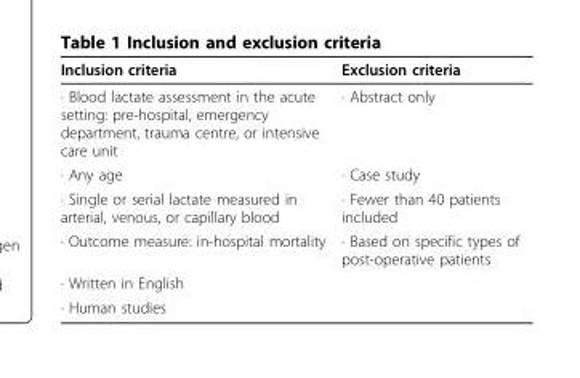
<table><thead><tr><td>Inclusion criteria</td><td>Exclusion criteria</td></tr></thead><tbody><tr><td>∙ Blood lactate assessment in the acute setting: pre-hospital, emergency department, trauma centre, or intensive care unit</td><td>∙ Abstract only</td></tr><tr><td>∙ Any age</td><td>∙ Case study</td></tr><tr><td>∙ Single or serial lactate measured in arterial, venous, or capillary blood</td><td>∙ Fewer than 40 patients included</td></tr><tr><td>∙ Outcome measure: in-hospital mortality</td><td>∙ Based on specific types of post-operative patients</td></tr><tr><td colspan="2">∙ Written in English</td></tr><tr><td>∙ Human studies</td><td></td></tr></tbody></table>